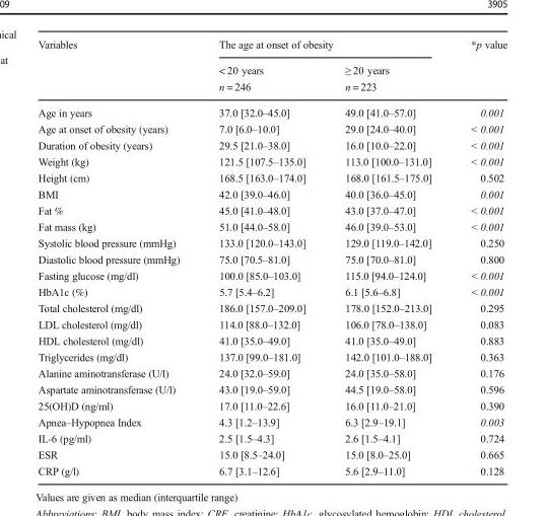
<table><thead><tr><td rowspan="2">Variables</td><td colspan="2">The age at onset of obesity</td><td rowspan="2">*p value</td></tr><tr><td>&lt; 20 years n = 246</td><td>≥ 20 years n = 223</td></tr></thead><tbody><tr><td>Age in years</td><td>37.0 [32.0–45.0]</td><td>49.0 [41.0–57.0]</td><td>0.001</td></tr><tr><td>Age at onset of obesity (years)</td><td>7.0 [6.0–10.0]</td><td>29.0 [24.0–40.0]</td><td>&lt; 0.001</td></tr><tr><td>Duration of obesity (years)</td><td>29.5 [21.0–38.0]</td><td>16.0 [10.0–22.0]</td><td>&lt; 0.001</td></tr><tr><td>Weight (kg)</td><td>121.5 [107.5–135.0]</td><td>113.0 [100.0–131.0]</td><td>&lt; 0.001</td></tr><tr><td>Height (cm)</td><td>168.5 [163.0–174.0]</td><td>168.0 [161.5–175.0]</td><td>0.502</td></tr><tr><td>BMI</td><td>42.0 [39.0–46.0]</td><td>40.0 [36.0–45.0]</td><td>0.001</td></tr><tr><td>Fat %</td><td>45.0 [41.0–48.0]</td><td>43.0 [37.0–47.0]</td><td>&lt; 0.001</td></tr><tr><td>Fat mass (kg)</td><td>51.0 [44.0–58.0]</td><td>46.0 [39.0–53.0]</td><td>&lt; 0.001</td></tr><tr><td>Systolic blood pressure (mmHg)</td><td>133.0 [120.0–143.0]</td><td>129.0 [119.0–142.0]</td><td>0.250</td></tr><tr><td>Diastolic blood pressure (mmHg)</td><td>75.0 [70.5–81.0]</td><td>75.0 [70.0–81.0]</td><td>0.800</td></tr><tr><td>Fasting glucose (mg/dl)</td><td>100.0 [85.0–103.0]</td><td>115.0 [94.0–124.0]</td><td>&lt; 0.001</td></tr><tr><td>HbA1c (%)</td><td>5.7 [5.4–6.2]</td><td>6.1 [5.6–6.8]</td><td>&lt; 0.001</td></tr><tr><td>Total cholesterol (mg/dl)</td><td>186.0 [157.0–209.0]</td><td>178.0 [152.0–213.0]</td><td>0.295</td></tr><tr><td>LDL cholesterol (mg/dl)</td><td>114.0 [88.0–132.0]</td><td>106.0 [78.0–138.0]</td><td>0.083</td></tr><tr><td>HDL cholesterol (mg/dl)</td><td>41.0 [35.0–49.0]</td><td>41.0 [35.0–49.0]</td><td>0.883</td></tr><tr><td>Triglycerides (mg/dl)</td><td>137.0 [99.0–181.0]</td><td>142.0 [101.0–188.0]</td><td>0.363</td></tr><tr><td>Alanine aminotransferase (U/l)</td><td>24.0 [32.0–59.0]</td><td>24.0 [35.0–58.0]</td><td>0.176</td></tr><tr><td>Aspartate aminotransferase (U/l)</td><td>43.0 [19.0–59.0]</td><td>44.5 [19.0–58.0]</td><td>0.596</td></tr><tr><td>25(OH)D (ng/ml)</td><td>17.0 [11.0–22.6]</td><td>16.0 [11.0–21.0]</td><td>0.390</td></tr><tr><td>Apnea–Hypopnea Index</td><td>4.3 [1.2–13.9]</td><td>6.3 [2.9–19.1]</td><td>0.003</td></tr><tr><td>IL-6 (pg/ml)</td><td>2.5 [1.5–4.3]</td><td>2.6 [1.5–4.1]</td><td>0.724</td></tr><tr><td>ESR</td><td>15.0 [8.5–24.0]</td><td>15.0 [8.0–25.0]</td><td>0.665</td></tr><tr><td>CRP (g/l)</td><td>6.7 [3.1–12.6]</td><td>5.6 [2.9–11.0]</td><td>0.128</td></tr></tbody></table>